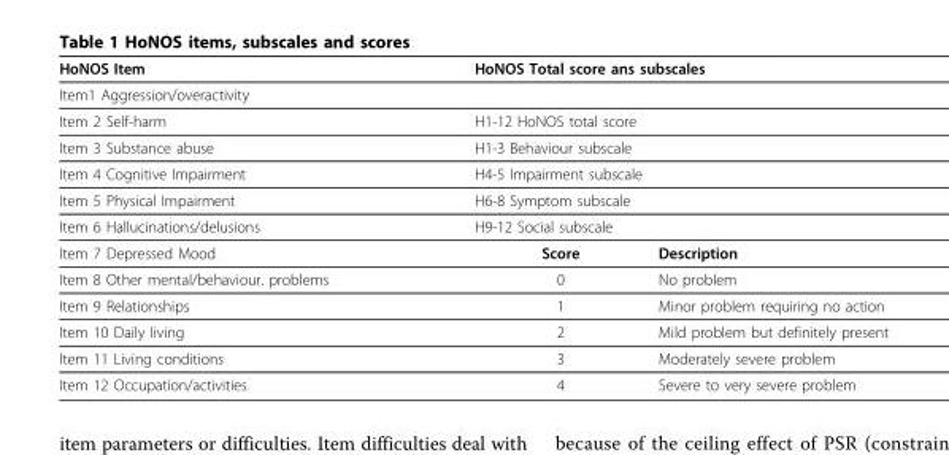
<table><thead><tr><td rowspan="2">HoNOS Item Item1 Aggression/overactivity</td><td colspan="2">HoNOS Total score ans subscales</td></tr><tr><td></td><td></td></tr></thead><tbody><tr><td>Item 2 Self-harm</td><td colspan="2">H1-12 HoNOS total score</td></tr><tr><td>Item 3 Substance abuse</td><td colspan="2">H1-3 Behaviour subscale</td></tr><tr><td>Item 4 Cognitive Impairment</td><td colspan="2">H4-5 Impairment subscale</td></tr><tr><td>Item 5 Physical Impairment</td><td colspan="2">H6-8 Symptom subscale</td></tr><tr><td>Item 6 Hallucinations/delusions</td><td colspan="2">H9-12 Social subscale</td></tr><tr><td>Item 7 Depressed Mood</td><td>Score</td><td>Description</td></tr><tr><td>Item 8 Other mental/behaviour. problems</td><td>0</td><td>No problem</td></tr><tr><td>Item 9 Relationships</td><td>1</td><td>Minor problem requiring no action</td></tr><tr><td>Item 10 Daily living</td><td>2</td><td>Mild problem but definitely present</td></tr><tr><td>Item 11 Living conditions</td><td>3</td><td>Moderately severe problem</td></tr><tr><td>Item 12 Occupation/activities</td><td>4</td><td>Severe to very severe problem</td></tr></tbody></table>